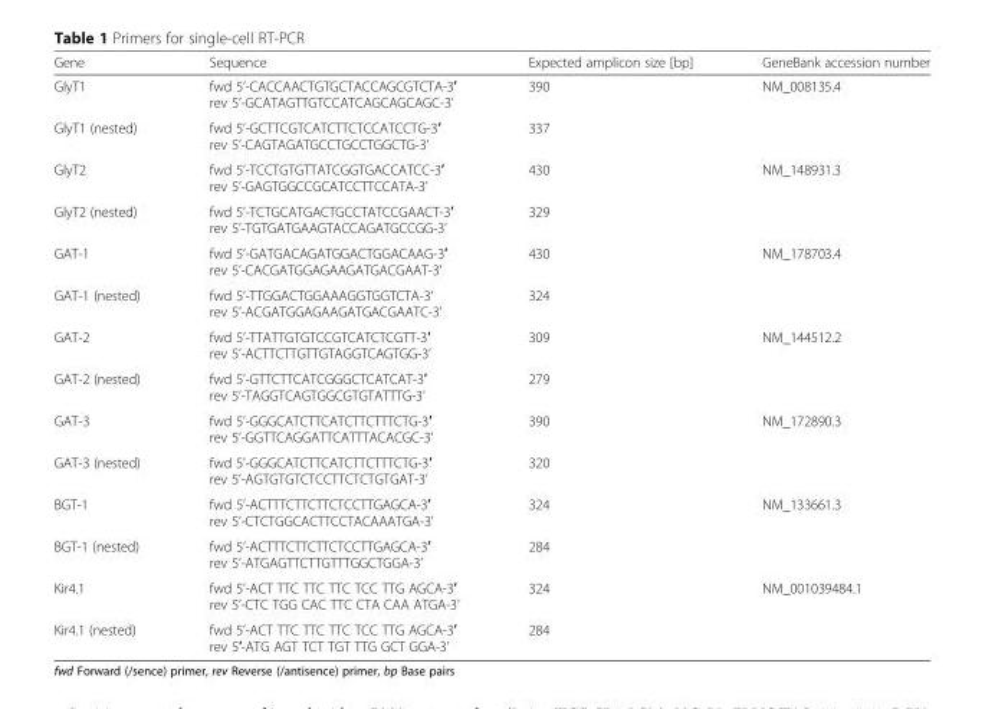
<table><thead><tr><td>Gene</td><td>Sequence</td><td>Expected amplicon size [bp]</td><td>GeneBank accession number</td></tr></thead><tbody><tr><td>GlyT1</td><td>fwd 5’-CACCAACTGTGCTACCAGCGTCTA-3′ rev 5’-GCATAGTTGTCCATCAGCAGCAGC-3’</td><td>390</td><td rowspan="2">NM_008135.4</td></tr><tr><td>GlyT1 (nested)</td><td>fwd 5’-GCTTCGTCATCTTCTCCATCCTG-3′ rev 5’-CAGTAGATGCCTGCCTGGCTG-3’</td><td>337</td></tr><tr><td>GlyT2</td><td>fwd 5’-TCCTGTGTTATCGGTGACCATCC-3′ rev 5’-GAGTGGCCGCATCCTTCCATA-3’</td><td>430</td><td rowspan="2">NM_148931.3</td></tr><tr><td>GlyT2 (nested)</td><td>fwd 5’-TCTGCATGACTGCCTATCCGAACT-3′ rev 5’-TGTGATGAAGTACCAGATGCCGG-3’</td><td>329</td></tr><tr><td>GAT-1</td><td>fwd 5’-GATGACAGATGGACTGGACAAG-3′ rev 5’-CACGATGGAGAAGATGACGAAT-3’</td><td>430</td><td rowspan="2">NM_178703.4</td></tr><tr><td>GAT-1 (nested)</td><td>fwd 5‘-TTGGACTGGAAAGGTGGTCTA-3‘ rev 5’-ACGATGGAGAAGATGACGAATC-3’</td><td>324</td></tr><tr><td>GAT-2</td><td>fwd 5’-TTATTGTGTCCGTCATCTCGTT-3′ rev 5’-ACTTCTTGTTGTAGGTCAGTGG-3’</td><td>309</td><td rowspan="2">NM_144512.2</td></tr><tr><td>GAT-2 (nested)</td><td>fwd 5’-GTTCTTCATCGGGCTCATCAT-3′ rev 5’-TAGGTCAGTGGCGTGTATTTG-3’</td><td>279</td></tr><tr><td>GAT-3</td><td>fwd 5’-GGGCATCTTCATCTTCTTTCTG-3′ rev 5’-GGTTCAGGATTCATTTACACGC-3’</td><td>390</td><td rowspan="2">NM_172890.3</td></tr><tr><td>GAT-3 (nested)</td><td>fwd 5’-GGGCATCTTCATCTTCTTTCTG-3′ rev 5’-AGTGTGTCTCCTTCTCTGTGAT-3’</td><td>320</td></tr><tr><td>BGT-1</td><td>fwd 5’-ACTTTCTTCTTCTCCTTGAGCA-3′ rev 5’-CTCTGGCACTTCCTACAAATGA-3’</td><td>324</td><td rowspan="2">NM_133661.3</td></tr><tr><td>BGT-1 (nested)</td><td>fwd 5’-ACTTTCTTCTTCTCCTTGAGCA-3′ rev 5’-ATGAGTTCTTGTTTGGCTGGA-3’</td><td>284</td></tr><tr><td>Kir4.1</td><td>fwd 5’-ACT TTC TTC TTC TCC TTG AGCA-3′ rev 5’-CTC TGG CAC TTC CTA CAA ATGA-3’</td><td>324</td><td rowspan="2">NM_001039484.1</td></tr><tr><td>Kir4.1 (nested)</td><td>fwd 5’-ACT TTC TTC TTC TCC TTG AGCA-3′ rev 5′-ATG AGT TCT TGT TTG GCT GGA-3’</td><td>284</td></tr></tbody></table>